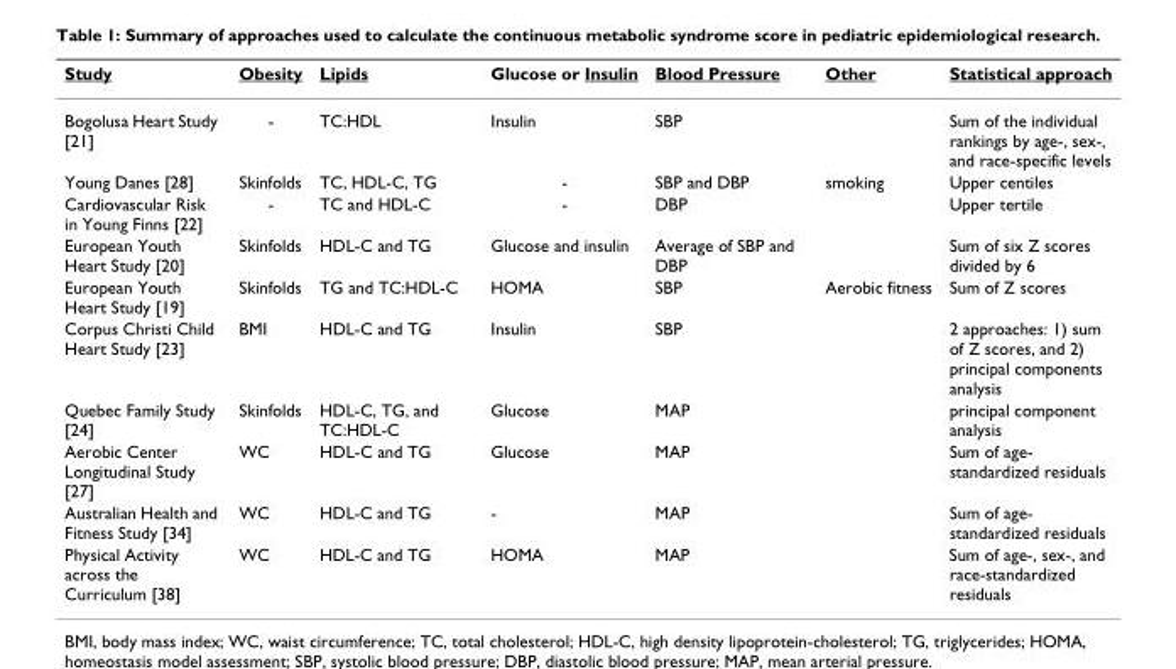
<table><thead><tr><td>Study</td><td>Obesity</td><td>Lipids</td><td>Glucose or Insulin</td><td>Blood Pressure</td><td>Other</td><td>Statistical approach</td></tr></thead><tbody><tr><td>Bogolusa Heart Study [21]</td><td>-</td><td>TC:HDL</td><td>Insulin</td><td>SBP</td><td></td><td>Sum of the individual rankings by age-, sex-, and race-specific levels</td></tr><tr><td>Young Danes [28]</td><td>Skinfolds</td><td>TC, HDL-C, TG</td><td>-</td><td>SBP and DBP</td><td>smoking</td><td>Upper centiles</td></tr><tr><td>Cardiovascular Risk in Young Finns [22]</td><td>-</td><td>TC and HDL-C</td><td>-</td><td>DBP</td><td></td><td>Upper tertile</td></tr><tr><td>European Youth Heart Study [20]</td><td>Skinfolds</td><td>HDL-C and TG</td><td>Glucose and insulin</td><td>Average of SBP and DBP</td><td></td><td>Sum of six Z scores divided by 6</td></tr><tr><td>European Youth Heart Study [19]</td><td>Skinfolds</td><td>TG and TC:HDL-C</td><td>HOMA</td><td>SBP</td><td>Aerobic fitness</td><td>Sum of Z scores</td></tr><tr><td>Corpus Christi Child Heart Study [23]</td><td>BMI</td><td>HDL-C and TG</td><td>Insulin</td><td>SBP</td><td></td><td>2 approaches: 1) sum of Z scores, and 2) principal components analysis</td></tr><tr><td>Quebec Family Study [24]</td><td>Skinfolds</td><td>HDL-C, TG, and TC:HDL-C</td><td>Glucose</td><td>MAP</td><td></td><td>principal component analysis</td></tr><tr><td>Aerobic Center Longitudinal Study [27]</td><td>WC</td><td>HDL-C and TG</td><td>Glucose</td><td>MAP</td><td></td><td>Sum of age- standardized residuals</td></tr><tr><td>Australian Health and Fitness Study [34]</td><td>WC</td><td>HDL-C and TG</td><td>-</td><td>MAP</td><td></td><td>Sum of age- standardized residuals</td></tr><tr><td>Physical Activity across the Curriculum [38]</td><td>WC</td><td>HDL-C and TG</td><td>HOMA</td><td>MAP</td><td></td><td>Sum of age-, sex-, and race-standardized residuals</td></tr></tbody></table>